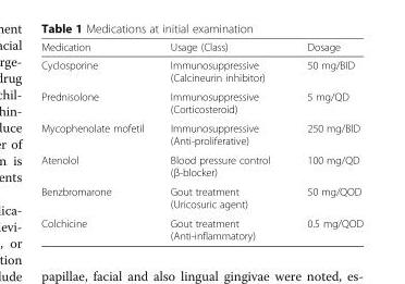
<table><thead><tr><td>Medication</td><td>Usage (Class)</td><td>Dosage</td></tr></thead><tbody><tr><td>Cyclosporine</td><td>Immunosuppressive (Calcineurin inhibitor)</td><td>50 mg/BID</td></tr><tr><td>Prednisolone</td><td>Immunosuppressive (Corticosteroid)</td><td>5 mg/QD</td></tr><tr><td>Mycophenolate mofetil</td><td>Immunosuppressive (Anti-proliferative)</td><td>250 mg/BID</td></tr><tr><td>Atenolol</td><td>Blood pressure control (β-blocker)</td><td>100 mg/QD</td></tr><tr><td>Benzbromarone</td><td>Gout treatment (Uricosuric agent)</td><td>50 mg/QOD</td></tr><tr><td>Colchicine</td><td>Gout treatment (Anti-inflammatory)</td><td>0.5 mg/QOD</td></tr></tbody></table>